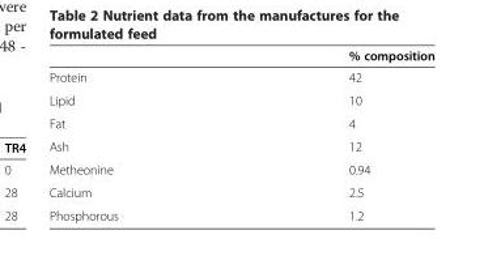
<table><thead><tr><td></td><td>% composition</td></tr></thead><tbody><tr><td>Protein</td><td>42</td></tr><tr><td>Lipid</td><td>10</td></tr><tr><td>Fat</td><td>4</td></tr><tr><td>Ash</td><td>12</td></tr><tr><td>Metheonine</td><td>0.94</td></tr><tr><td>Calcium</td><td>2.5</td></tr><tr><td>Phosphorous</td><td>1.2</td></tr></tbody></table>